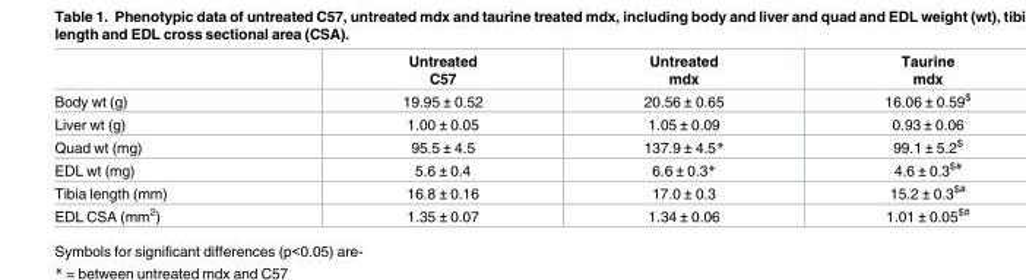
<table><thead><tr><td></td><td>Untreated C57</td><td>Untreated mdx</td><td>Taurine mdx</td></tr></thead><tbody><tr><td>Body wt (g)</td><td>19.95 ± 0.52</td><td>20.56 ± 0.65</td><td>16.06 ± 0.59<sup>$</sup></td></tr><tr><td>Liver wt (g)</td><td>1.00 ± 0.05</td><td>1.05 ± 0.09</td><td>0.93 ± 0.06</td></tr><tr><td>Quad wt (mg)</td><td>95.5 ± 4.5</td><td>137.9 ± 4.5*</td><td>99.1 ± 5.2<sup>$</sup></td></tr><tr><td>EDL wt (mg)</td><td>5.6 ± 0.4</td><td>6.6 ± 0.3*</td><td>4.6 ± 0.3<sup>$#</sup></td></tr><tr><td>Tibia length (mm)</td><td>16.8 ± 0.16</td><td>17.0 ± 0.3</td><td>15.2 ± 0.3<sup>$#</sup></td></tr><tr><td>EDL CSA (mm<sup>2</sup>)</td><td>1.35 ± 0.07</td><td>1.34 ± 0.06</td><td>1.01 ± 0.05<sup>$#</sup></td></tr></tbody></table>